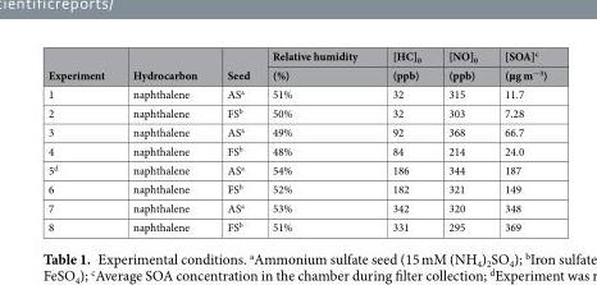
<table><thead><tr><td rowspan="2">Experiment</td><td rowspan="2">Hydrocarbon</td><td rowspan="2">Seed</td><td rowspan="2">Relative humidity (%)</td><td rowspan="2">[HC]<sub>0</sub> (ppb)</td><td rowspan="2">[NO]<sub>0</sub> (ppb)</td><td rowspan="2">[SOA]<sup>c</sup> (µg m<sup>−3</sup>)</td></tr><tr></tr></thead><tbody><tr><td>1</td><td>naphthalene</td><td>AS<sup>a</sup></td><td>51%</td><td>32</td><td>315</td><td>11.7</td></tr><tr><td>2</td><td>naphthalene</td><td>FS<sup>b</sup></td><td>50%</td><td>32</td><td>303</td><td>7.28</td></tr><tr><td>3</td><td>naphthalene</td><td>AS<sup>a</sup></td><td>49%</td><td>92</td><td>368</td><td>66.7</td></tr><tr><td>4</td><td>naphthalene</td><td>FS<sup>b</sup></td><td>48%</td><td>84</td><td>214</td><td>24.0</td></tr><tr><td>5<sup>d</sup></td><td>naphthalene</td><td>AS<sup>a</sup></td><td>54%</td><td>186</td><td>344</td><td>187</td></tr><tr><td>6</td><td>naphthalene</td><td>FS<sup>b</sup></td><td>52%</td><td>182</td><td>321</td><td>149</td></tr><tr><td>7</td><td>naphthalene</td><td>AS<sup>a</sup></td><td>53%</td><td>342</td><td>320</td><td>348</td></tr><tr><td>8</td><td>naphthalene</td><td>FS<sup>b</sup></td><td>51%</td><td>331</td><td>295</td><td>369</td></tr></tbody></table>